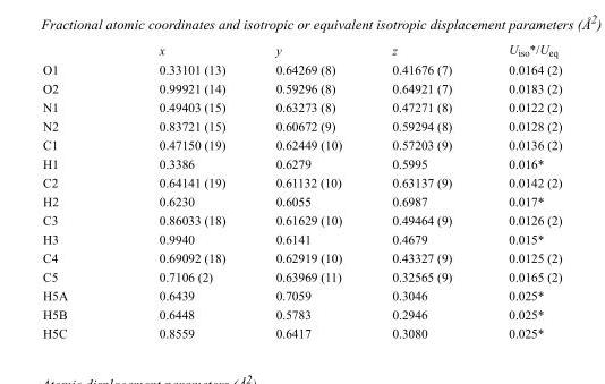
<table><thead><tr><td></td><td>x</td><td>y</td><td>z</td><td>U<sub>iso</sub>*/U<sub>eq</sub></td></tr></thead><tbody><tr><td>O1</td><td>0.33101 (13)</td><td>0.64269 (8)</td><td>0.41676 (7)</td><td>0.0164 (2)</td></tr><tr><td>O2</td><td>0.99921 (14)</td><td>0.59296 (8)</td><td>0.64921 (7)</td><td>0.0183 (2)</td></tr><tr><td>N1</td><td>0.49403 (15)</td><td>0.63273 (8)</td><td>0.47271 (8)</td><td>0.0122 (2)</td></tr><tr><td>N2</td><td>0.83721 (15)</td><td>0.60672 (9)</td><td>0.59294 (8)</td><td>0.0128 (2)</td></tr><tr><td>C1</td><td>0.47150 (19)</td><td>0.62449 (10)</td><td>0.57203 (9)</td><td>0.0136 (2)</td></tr><tr><td>H1</td><td>0.3386</td><td>0.6279</td><td>0.5995</td><td>0.016*</td></tr><tr><td>C2</td><td>0.64141 (19)</td><td>0.61132 (10)</td><td>0.63137 (9)</td><td>0.0142 (2)</td></tr><tr><td>H2</td><td>0.6230</td><td>0.6055</td><td>0.6987</td><td>0.017*</td></tr><tr><td>C3</td><td>0.86033 (18)</td><td>0.61629 (10)</td><td>0.49464 (9)</td><td>0.0126 (2)</td></tr><tr><td>H3</td><td>0.9940</td><td>0.6141</td><td>0.4679</td><td>0.015*</td></tr><tr><td>C4</td><td>0.69092 (18)</td><td>0.62919 (10)</td><td>0.43327 (9)</td><td>0.0125 (2)</td></tr><tr><td>C5</td><td>0.7106 (2)</td><td>0.63969 (11)</td><td>0.32565 (9)</td><td>0.0165 (2)</td></tr><tr><td>H5A</td><td>0.6439</td><td>0.7059</td><td>0.3046</td><td>0.025*</td></tr><tr><td>H5B</td><td>0.6448</td><td>0.5783</td><td>0.2946</td><td>0.025*</td></tr><tr><td>H5C</td><td>0.8559</td><td>0.6417</td><td>0.3080</td><td>0.025*</td></tr></tbody></table>